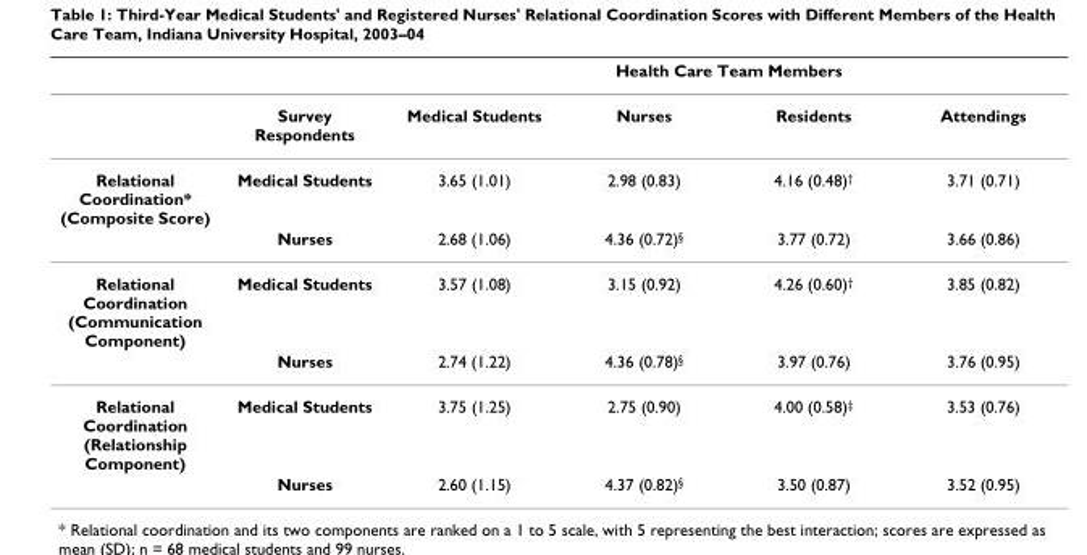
<table><thead><tr><td rowspan="2"></td><td rowspan="2">Survey Respondents</td><td colspan="4">Health Care Team Members</td></tr><tr><td>Medical Students</td><td>Nurses</td><td>Residents</td><td>Attendings</td></tr></thead><tbody><tr><td rowspan="2">Relational Coordination* (Composite Score)</td><td>Medical Students</td><td>3.65 (1.01)</td><td>2.98 (0.83)</td><td>4.16 (0.48)†</td><td>3.71 (0.71)</td></tr><tr><td>Nurses</td><td>2.68 (1.06)</td><td>4.36 (0.72)§</td><td>3.77 (0.72)</td><td>3.66 (0.86)</td></tr><tr><td rowspan="2">Relational Coordination (Communication Component)</td><td>Medical Students</td><td>3.57 (1.08)</td><td>3.15 (0.92)</td><td>4.26 (0.60)†</td><td>3.85 (0.82)</td></tr><tr><td>Nurses</td><td>2.74 (1.22)</td><td>4.36 (0.78)§</td><td>3.97 (0.76)</td><td>3.76 (0.95)</td></tr><tr><td rowspan="2">Relational Coordination (Relationship Component)</td><td>Medical Students</td><td>3.75 (1.25)</td><td>2.75 (0.90)</td><td>4.00 (0.58)‡</td><td>3.53 (0.76)</td></tr><tr><td>Nurses</td><td>2.60 (1.15)</td><td>4.37 (0.82)§</td><td>3.50 (0.87)</td><td>3.52 (0.95)</td></tr></tbody></table>